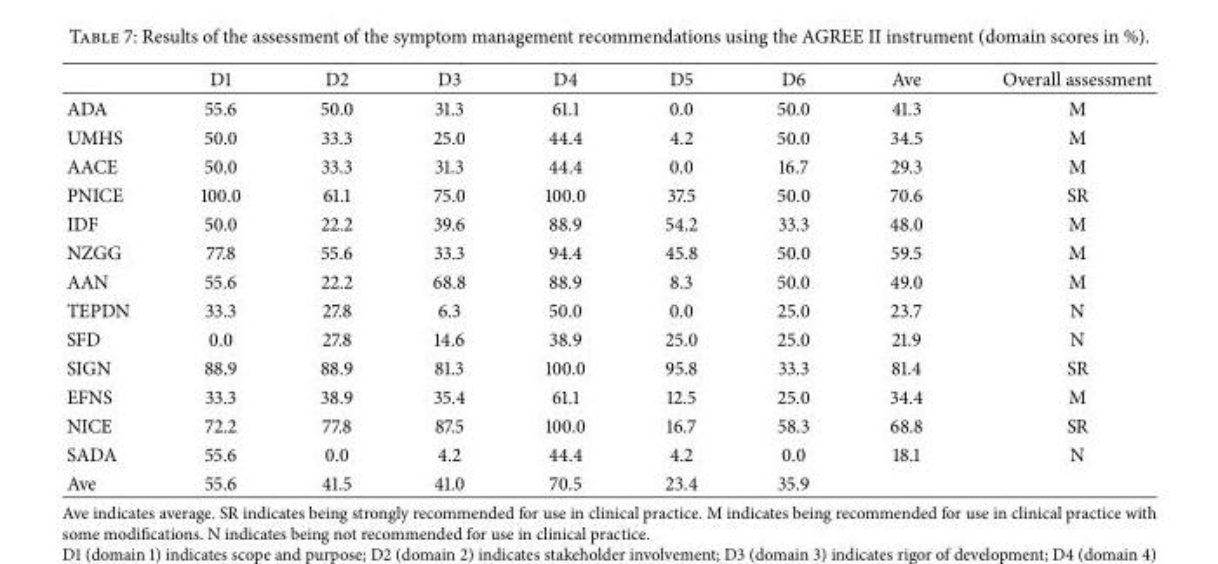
<table><thead><tr><td></td><td>D1</td><td>D2</td><td>D3</td><td>D4</td><td>D5</td><td>D6</td><td>Ave</td><td>Overall assessment</td></tr></thead><tbody><tr><td>ADA</td><td>55.6</td><td>50.0</td><td>31.3</td><td>61.1</td><td>0.0</td><td>50.0</td><td>41.3</td><td>M</td></tr><tr><td>UMHS</td><td>50.0</td><td>33.3</td><td>25.0</td><td>44.4</td><td>4.2</td><td>50.0</td><td>34.5</td><td>M</td></tr><tr><td>AACE</td><td>50.0</td><td>33.3</td><td>31.3</td><td>44.4</td><td>0.0</td><td>16.7</td><td>29.3</td><td>M</td></tr><tr><td>PNICE</td><td>100.0</td><td>61.1</td><td>75.0</td><td>100.0</td><td>37.5</td><td>50.0</td><td>70.6</td><td>SR</td></tr><tr><td>IDF</td><td>50.0</td><td>22.2</td><td>39.6</td><td>88.9</td><td>54.2</td><td>33.3</td><td>48.0</td><td>M</td></tr><tr><td>NZGG</td><td>77.8</td><td>55.6</td><td>33.3</td><td>94.4</td><td>45.8</td><td>50.0</td><td>59.5</td><td>M</td></tr><tr><td>AAN</td><td>55.6</td><td>22.2</td><td>68.8</td><td>88.9</td><td>8.3</td><td>50.0</td><td>49.0</td><td>M</td></tr><tr><td>TEPDN</td><td>33.3</td><td>27.8</td><td>6.3</td><td>50.0</td><td>0.0</td><td>25.0</td><td>23.7</td><td>N</td></tr><tr><td>SFD</td><td>0.0</td><td>27.8</td><td>14.6</td><td>38.9</td><td>25.0</td><td>25.0</td><td>21.9</td><td>N</td></tr><tr><td>SIGN</td><td>88.9</td><td>88.9</td><td>81.3</td><td>100.0</td><td>95.8</td><td>33.3</td><td>81.4</td><td>SR</td></tr><tr><td>EFNS</td><td>33.3</td><td>38.9</td><td>35.4</td><td>61.1</td><td>12.5</td><td>25.0</td><td>34.4</td><td>M</td></tr><tr><td>NICE</td><td>72.2</td><td>77.8</td><td>87.5</td><td>100.0</td><td>16.7</td><td>58.3</td><td>68.8</td><td>SR</td></tr><tr><td>SADA</td><td>55.6</td><td>0.0</td><td>4.2</td><td>44.4</td><td>4.2</td><td>0.0</td><td>18.1</td><td>N</td></tr><tr><td>Ave</td><td>55.6</td><td>41.5</td><td>41.0</td><td>70.5</td><td>23.4</td><td>35.9</td><td></td><td></td></tr></tbody></table>